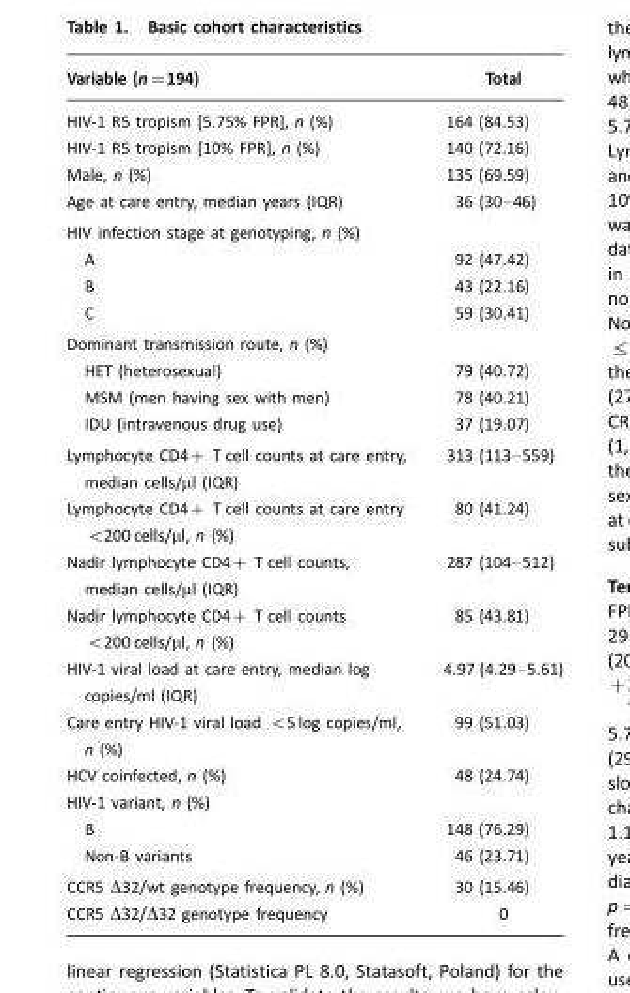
<table><thead><tr><td>Variable (n=194)</td><td>Total</td></tr></thead><tbody><tr><td>HIV-1 R5 tropism [5.75% FPR], n (%)</td><td>164 (84.53)</td></tr><tr><td>HIV-1 R5 tropism [10% FPR], n (%)</td><td>140 (72.16)</td></tr><tr><td>Male, n (%)</td><td>135 (69.59)</td></tr><tr><td>Age at care entry, median years (IQR)</td><td>36 (30–46)</td></tr><tr><td colspan="2">HIV infection stage at genotyping, n (%)</td></tr><tr><td>A</td><td>92 (47.42)</td></tr><tr><td>B</td><td>43 (22.16)</td></tr><tr><td>C</td><td>59 (30.41)</td></tr><tr><td colspan="2">Dominant transmission route, n (%)</td></tr><tr><td>HET (heterosexual)</td><td>79 (40.72)</td></tr><tr><td>MSM (men having sex with men)</td><td>78 (40.21)</td></tr><tr><td>IDU (intravenous drug use)</td><td>37 (19.07)</td></tr><tr><td>Lymphocyte CD4+ T cell counts at care entry, median cells/µl (IQR)</td><td>313 (113–559)</td></tr><tr><td>Lymphocyte CD4+ T cell counts at care entry &lt;200 cells/µl, n (%)</td><td>80 (41.24)</td></tr><tr><td>Nadir lymphocyte CD4+ T cell counts, median cells/µl (IQR)</td><td>287 (104–512)</td></tr><tr><td>Nadir lymphocyte CD4+ T cell counts &lt;200 cells/µl, n (%)</td><td>85 (43.81)</td></tr><tr><td>HIV-1 viral load at care entry, median log copies/ml (IQR)</td><td>4.97 (4.29–5.61)</td></tr><tr><td>Care entry HIV-1 viral load &lt;5 log copies/ml, n (%)</td><td>99 (51.03)</td></tr><tr><td>HCV coinfected, n (%)</td><td>48 (24.74)</td></tr><tr><td colspan="2">HIV-1 variant, n (%)</td></tr><tr><td>B</td><td>148 (76.29)</td></tr><tr><td>Non-B variants</td><td>46 (23.71)</td></tr><tr><td>CCR5 Δ32/wt genotype frequency, n (%)</td><td>30 (15.46)</td></tr><tr><td>CCR5 Δ32/Δ32 genotype frequency</td><td>0</td></tr></tbody></table>